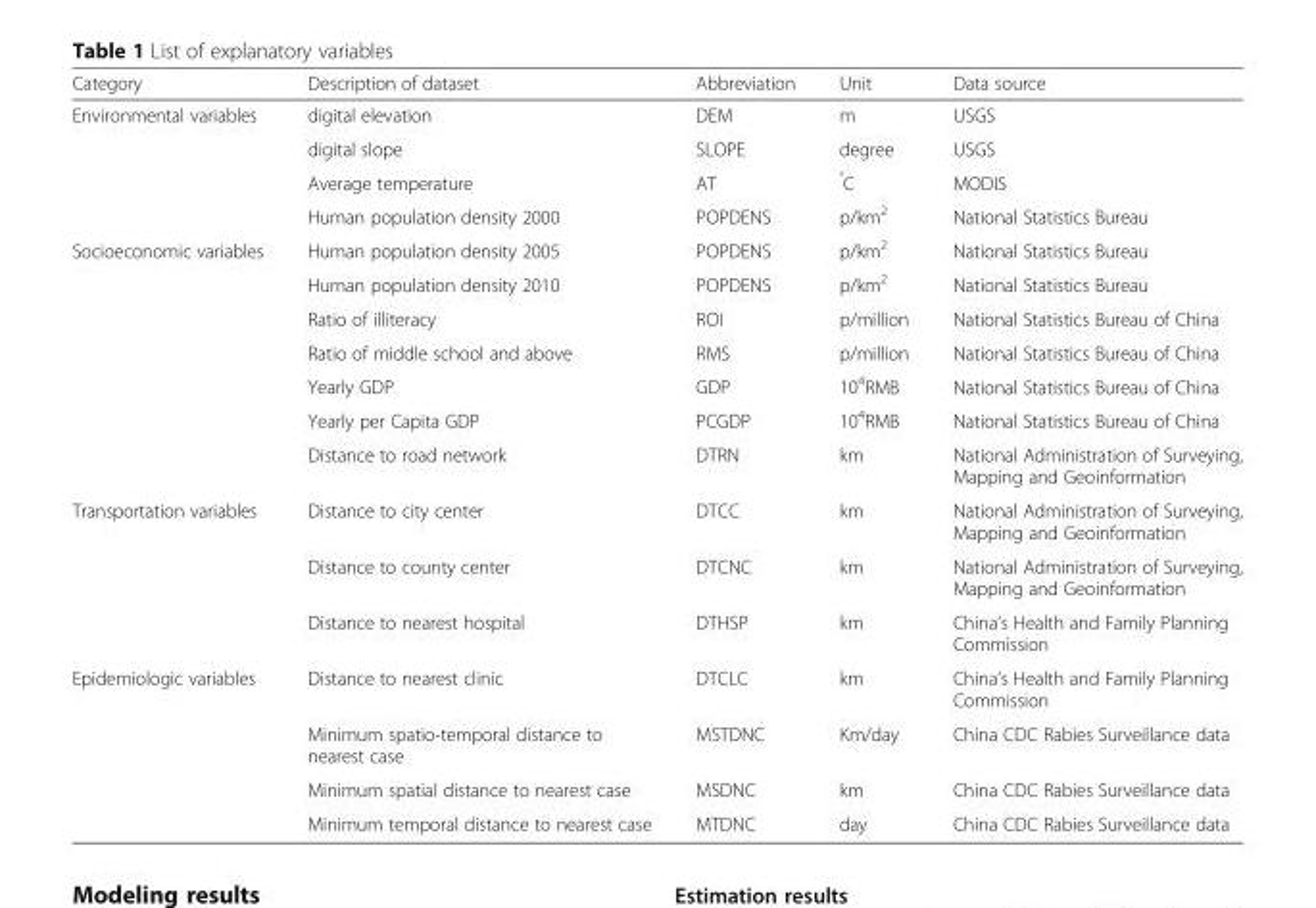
<table><thead><tr><td>Category</td><td>Description of dataset</td><td>Abbreviation</td><td>Unit</td><td>Data source</td></tr></thead><tbody><tr><td rowspan="4">Environmental variables</td><td>digital elevation</td><td>DEM</td><td>m</td><td>USGS</td></tr><tr><td>digital slope</td><td>SLOPE</td><td>degree</td><td>USGS</td></tr><tr><td>Average temperature</td><td>AT</td><td><sup>°</sup>C</td><td>MODIS</td></tr><tr><td>Human population density 2000</td><td>POPDENS</td><td>p/km<sup>2</sup></td><td>National Statistics Bureau</td></tr><tr><td rowspan="7">Socioeconomic variables</td><td>Human population density 2005</td><td>POPDENS</td><td>p/km<sup>2</sup></td><td>National Statistics Bureau</td></tr><tr><td>Human population density 2010</td><td>POPDENS</td><td>p/km<sup>2</sup></td><td>National Statistics Bureau</td></tr><tr><td>Ratio of illiteracy</td><td>ROI</td><td>p/million</td><td>National Statistics Bureau of China</td></tr><tr><td>Ratio of middle school and above</td><td>RMS</td><td>p/million</td><td>National Statistics Bureau of China</td></tr><tr><td>Yearly GDP</td><td>GDP</td><td>10<sup>4</sup>RMB</td><td>National Statistics Bureau of China</td></tr><tr><td>Yearly per Capita GDP</td><td>PCGDP</td><td>10<sup>4</sup>RMB</td><td>National Statistics Bureau of China</td></tr><tr><td>Distance to road network</td><td>DTRN</td><td>km</td><td>National Administration of Surveying, Mapping and Geoinformation</td></tr><tr><td rowspan="3">Transportation variables</td><td>Distance to city center</td><td>DTCC</td><td>km</td><td>National Administration of Surveying, Mapping and Geoinformation</td></tr><tr><td>Distance to county center</td><td>DTCNC</td><td>km</td><td>National Administration of Surveying, Mapping and Geoinformation</td></tr><tr><td>Distance to nearest hospital</td><td>DTHSP</td><td>km</td><td>China’s Health and Family Planning Commission</td></tr><tr><td rowspan="4">Epidemiologic variables</td><td>Distance to nearest clinic</td><td>DTCLC</td><td>km</td><td>China’s Health and Family Planning Commission</td></tr><tr><td>Minimum spatio-temporal distance to nearest case</td><td>MSTDNC</td><td>Km/day</td><td>China CDC Rabies Surveillance data</td></tr><tr><td>Minimum spatial distance to nearest case</td><td>MSDNC</td><td>km</td><td>China CDC Rabies Surveillance data</td></tr><tr><td>Minimum temporal distance to nearest case</td><td>MTDNC</td><td>day</td><td>China CDC Rabies Surveillance data</td></tr></tbody></table>